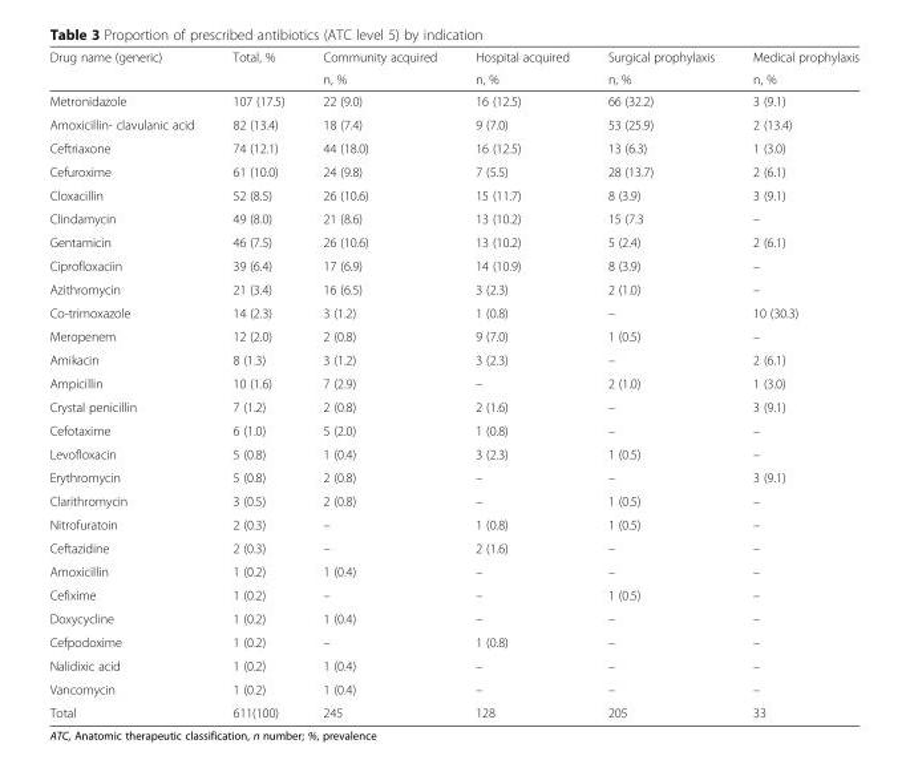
<table><thead><tr><td rowspan="2">Drug name (generic)</td><td rowspan="2">Total, %</td><td rowspan="2">Community acquired n, %</td><td rowspan="2">Hospital acquired n, %</td><td rowspan="2">Surgical prophylaxis n, %</td><td rowspan="2">Medical prophylaxis n, %</td></tr><tr></tr></thead><tbody><tr><td>Metronidazole</td><td>107 (17.5)</td><td>22 (9.0)</td><td>16 (12.5)</td><td>66 (32.2)</td><td>3 (9.1)</td></tr><tr><td>Amoxicillin- clavulanic acid</td><td>82 (13.4)</td><td>18 (7.4)</td><td>9 (7.0)</td><td>53 (25.9)</td><td>2 (13.4)</td></tr><tr><td>Ceftriaxone</td><td>74 (12.1)</td><td>44 (18.0)</td><td>16 (12.5)</td><td>13 (6.3)</td><td>1 (3.0)</td></tr><tr><td>Cefuroxime</td><td>61 (10.0)</td><td>24 (9.8)</td><td>7 (5.5)</td><td>28 (13.7)</td><td>2 (6.1)</td></tr><tr><td>Cloxacillin</td><td>52 (8.5)</td><td>26 (10.6)</td><td>15 (11.7)</td><td>8 (3.9)</td><td>3 (9.1)</td></tr><tr><td>Clindamycin</td><td>49 (8.0)</td><td>21 (8.6)</td><td>13 (10.2)</td><td>15 (7.3</td><td>–</td></tr><tr><td>Gentamicin</td><td>46 (7.5)</td><td>26 (10.6)</td><td>13 (10.2)</td><td>5 (2.4)</td><td>2 (6.1)</td></tr><tr><td>Ciprofloxaciin</td><td>39 (6.4)</td><td>17 (6.9)</td><td>14 (10.9)</td><td>8 (3.9)</td><td>–</td></tr><tr><td>Azithromycin</td><td>21 (3.4)</td><td>16 (6.5)</td><td>3 (2.3)</td><td>2 (1.0)</td><td>–</td></tr><tr><td>Co-trimoxazole</td><td>14 (2.3)</td><td>3 (1.2)</td><td>1 (0.8)</td><td>–</td><td>10 (30.3)</td></tr><tr><td>Meropenem</td><td>12 (2.0)</td><td>2 (0.8)</td><td>9 (7.0)</td><td>1 (0.5)</td><td>–</td></tr><tr><td>Amikacin</td><td>8 (1.3)</td><td>3 (1.2)</td><td>3 (2.3)</td><td>–</td><td>2 (6.1)</td></tr><tr><td>Ampicillin</td><td>10 (1.6)</td><td>7 (2.9)</td><td>–</td><td>2 (1.0)</td><td>1 (3.0)</td></tr><tr><td>Crystal penicillin</td><td>7 (1.2)</td><td>2 (0.8)</td><td>2 (1.6)</td><td>–</td><td>3 (9.1)</td></tr><tr><td>Cefotaxime</td><td>6 (1.0)</td><td>5 (2.0)</td><td>1 (0.8)</td><td>–</td><td>–</td></tr><tr><td>Levofloxacin</td><td>5 (0.8)</td><td>1 (0.4)</td><td>3 (2.3)</td><td>1 (0.5)</td><td>–</td></tr><tr><td>Erythromycin</td><td>5 (0.8)</td><td>2 (0.8)</td><td>–</td><td>–</td><td>3 (9.1)</td></tr><tr><td>Clarithromycin</td><td>3 (0.5)</td><td>2 (0.8)</td><td>–</td><td>1 (0.5)</td><td>–</td></tr><tr><td>Nitrofuratoin</td><td>2 (0.3)</td><td>–</td><td>1 (0.8)</td><td>1 (0.5)</td><td>–</td></tr><tr><td>Ceftazidine</td><td>2 (0.3)</td><td>–</td><td>2 (1.6)</td><td>–</td><td>–</td></tr><tr><td>Amoxicillin</td><td>1 (0.2)</td><td>1 (0.4)</td><td>–</td><td>–</td><td>–</td></tr><tr><td>Cefixime</td><td>1 (0.2)</td><td>–</td><td>–</td><td>1 (0.5)</td><td>–</td></tr><tr><td>Doxycycline</td><td>1 (0.2)</td><td>1 (0.4)</td><td>–</td><td>–</td><td>–</td></tr><tr><td>Cefpodoxime</td><td>1 (0.2)</td><td>–</td><td>1 (0.8)</td><td>–</td><td>–</td></tr><tr><td>Nalidixic acid</td><td>1 (0.2)</td><td>1 (0.4)</td><td>–</td><td>–</td><td>–</td></tr><tr><td>Vancomycin</td><td>1 (0.2)</td><td>1 (0.4)</td><td>–</td><td>–</td><td>–</td></tr><tr><td>Total</td><td>611(100)</td><td>245</td><td>128</td><td>205</td><td>33</td></tr></tbody></table>